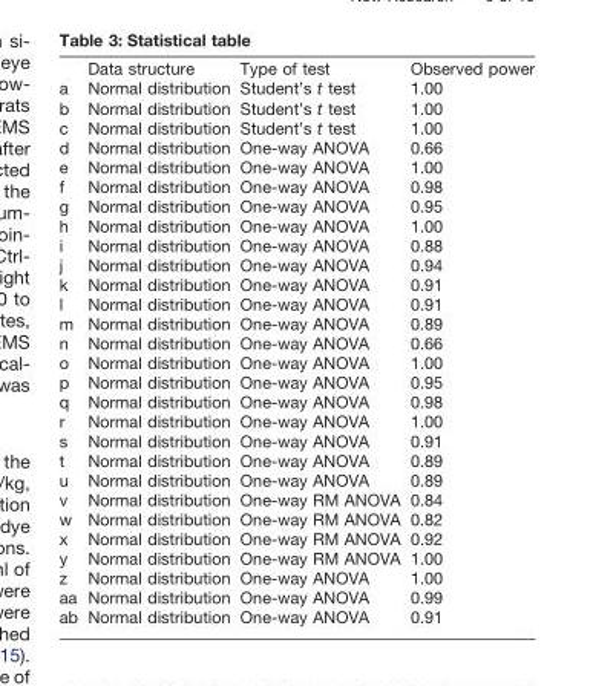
<table><thead><tr><td></td><td>Data structure</td><td>Type of test</td><td>Observed power</td></tr></thead><tbody><tr><td>a</td><td>Normal distribution</td><td>Student’s t test</td><td>1.00</td></tr><tr><td>b</td><td>Normal distribution</td><td>Student’s t test</td><td>1.00</td></tr><tr><td>c</td><td>Normal distribution</td><td>Student’s t test</td><td>1.00</td></tr><tr><td>d</td><td>Normal distribution</td><td>One-way ANOVA</td><td>0.66</td></tr><tr><td>e</td><td>Normal distribution</td><td>One-way ANOVA</td><td>1.00</td></tr><tr><td>f</td><td>Normal distribution</td><td>One-way ANOVA</td><td>0.98</td></tr><tr><td>g</td><td>Normal distribution</td><td>One-way ANOVA</td><td>0.95</td></tr><tr><td>h</td><td>Normal distribution</td><td>One-way ANOVA</td><td>1.00</td></tr><tr><td>i</td><td>Normal distribution</td><td>One-way ANOVA</td><td>0.88</td></tr><tr><td>j</td><td>Normal distribution</td><td>One-way ANOVA</td><td>0.94</td></tr><tr><td>k</td><td>Normal distribution</td><td>One-way ANOVA</td><td>0.91</td></tr><tr><td>l</td><td>Normal distribution</td><td>One-way ANOVA</td><td>0.91</td></tr><tr><td>m</td><td>Normal distribution</td><td>One-way ANOVA</td><td>0.89</td></tr><tr><td>n</td><td>Normal distribution</td><td>One-way ANOVA</td><td>0.66</td></tr><tr><td>o</td><td>Normal distribution</td><td>One-way ANOVA</td><td>1.00</td></tr><tr><td>p</td><td>Normal distribution</td><td>One-way ANOVA</td><td>0.95</td></tr><tr><td>q</td><td>Normal distribution</td><td>One-way ANOVA</td><td>0.98</td></tr><tr><td>r</td><td>Normal distribution</td><td>One-way ANOVA</td><td>1.00</td></tr><tr><td>s</td><td>Normal distribution</td><td>One-way ANOVA</td><td>0.91</td></tr><tr><td>t</td><td>Normal distribution</td><td>One-way ANOVA</td><td>0.89</td></tr><tr><td>u</td><td>Normal distribution</td><td>One-way ANOVA</td><td>0.89</td></tr><tr><td>v</td><td>Normal distribution</td><td>One-way RM ANOVA</td><td>0.84</td></tr><tr><td>w</td><td>Normal distribution</td><td>One-way RM ANOVA</td><td>0.82</td></tr><tr><td>x</td><td>Normal distribution</td><td>One-way RM ANOVA</td><td>0.92</td></tr><tr><td>y</td><td>Normal distribution</td><td>One-way RM ANOVA</td><td>1.00</td></tr><tr><td>z</td><td>Normal distribution</td><td>One-way ANOVA</td><td>1.00</td></tr><tr><td>aa</td><td>Normal distribution</td><td>One-way ANOVA</td><td>0.99</td></tr><tr><td>ab</td><td>Normal distribution</td><td>One-way ANOVA</td><td>0.91</td></tr></tbody></table>